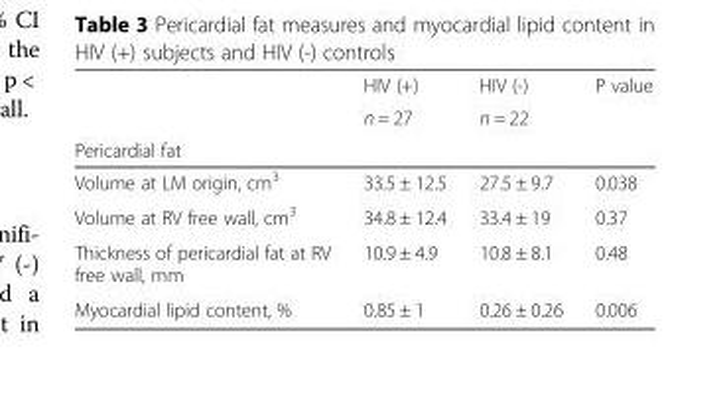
<table><thead><tr><td rowspan="3">Pericardial fat</td><td rowspan="3">HIV (+) n = 27</td><td rowspan="3">HIV (-) n = 22</td><td rowspan="3">P value</td></tr><tr></tr><tr></tr></thead><tbody><tr><td>Volume at LM origin, cm<sup>3</sup></td><td>33.5 ± 12.5</td><td>27.5 ± 9.7</td><td>0.038</td></tr><tr><td>Volume at RV free wall, cm<sup>3</sup></td><td>34.8 ± 12.4</td><td>33.4 ± 19</td><td>0.37</td></tr><tr><td>Thickness of pericardial fat at RV free wall, mm</td><td>10.9 ± 4.9</td><td>10.8 ± 8.1</td><td>0.48</td></tr><tr><td>Myocardial lipid content, %</td><td>0.85 ± 1</td><td>0.26 ± 0.26</td><td>0.006</td></tr></tbody></table>